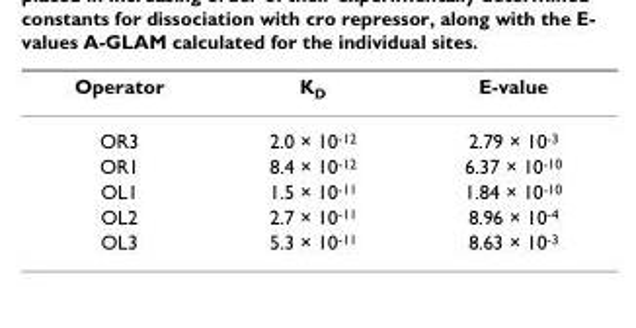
<table><thead><tr><td>Operator</td><td>K<sub>D</sub></td><td>E-value</td></tr></thead><tbody><tr><td>OR3</td><td>2.0 × 10<sup>-12</sup></td><td>2.79 × 10<sup>-3</sup></td></tr><tr><td>OR1</td><td>8.4 × 10<sup>-12</sup></td><td>6.37 × 10<sup>-10</sup></td></tr><tr><td>OL1</td><td>1.5 × 10<sup>-11</sup></td><td>1.84 × 10<sup>-10</sup></td></tr><tr><td>OL2</td><td>2.7 × 10<sup>-11</sup></td><td>8.96 × 10<sup>-4</sup></td></tr><tr><td>OL3</td><td>5.3 × 10<sup>-11</sup></td><td>8.63 × 10<sup>-3</sup></td></tr></tbody></table>